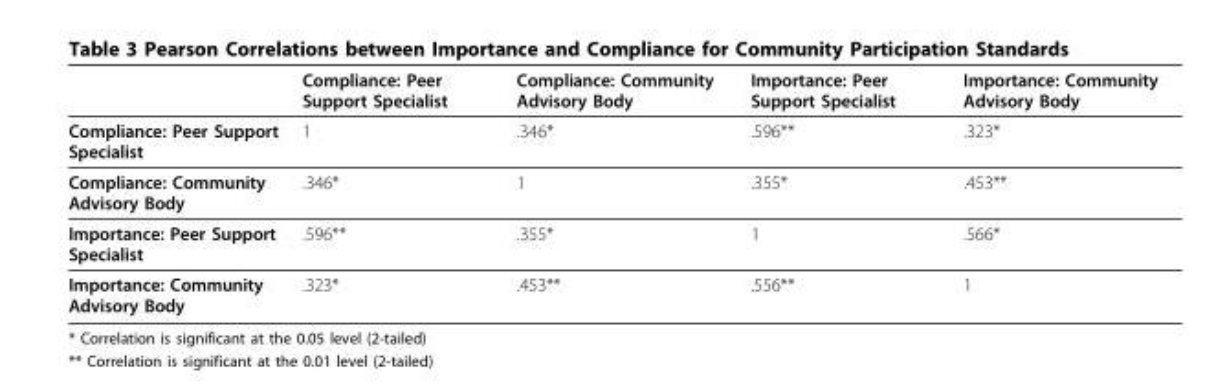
<table><thead><tr><td></td><td>Compliance: Peer Support Specialist</td><td>Compliance: Community Advisory Body</td><td>Importance: Peer Support Specialist</td><td>Importance: Community Advisory Body</td></tr></thead><tbody><tr><td>Compliance: Peer Support Specialist</td><td>1</td><td>.346*</td><td>.596**</td><td>.323*</td></tr><tr><td>Compliance: Community Advisory Body</td><td>.346*</td><td>1</td><td>.355*</td><td>.453**</td></tr><tr><td>Importance: Peer Support Specialist</td><td>.596**</td><td>.355*</td><td>1</td><td>.566*</td></tr><tr><td>Importance: Community Advisory Body</td><td>.323*</td><td>.453**</td><td>.556**</td><td>1</td></tr></tbody></table>